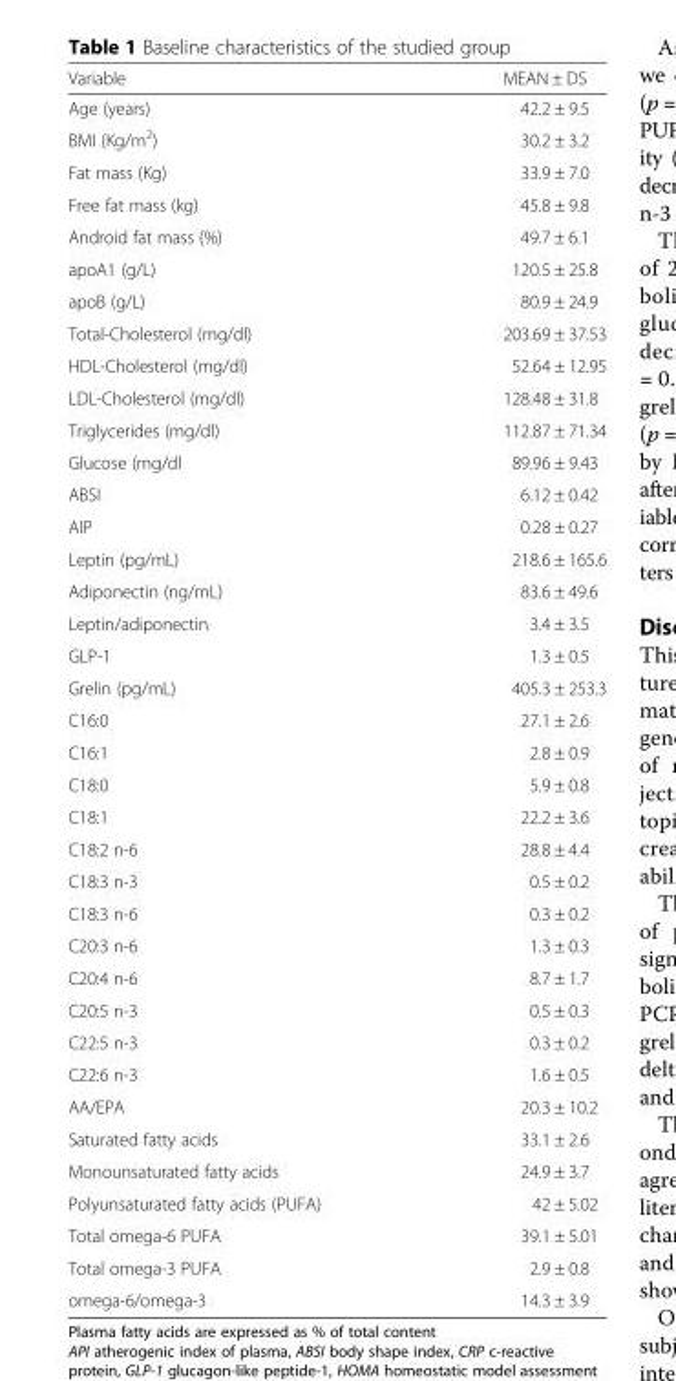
<table><thead><tr><td>Variable</td><td>MEAN ± DS</td></tr></thead><tbody><tr><td>Age (years)</td><td>42.2 ± 9.5</td></tr><tr><td>BMI (Kg/m<sup>2</sup>)</td><td>30.2 ± 3.2</td></tr><tr><td>Fat mass (Kg)</td><td>33.9 ± 7.0</td></tr><tr><td>Free fat mass (kg)</td><td>45.8 ± 9.8</td></tr><tr><td>Android fat mass (%)</td><td>49.7 ± 6.1</td></tr><tr><td>apoA1 (g/L)</td><td>120.5 ± 25.8</td></tr><tr><td>apoB (g/L)</td><td>80.9 ± 24.9</td></tr><tr><td>Total-Cholesterol (mg/dl)</td><td>203.69 ± 37.53</td></tr><tr><td>HDL-Cholesterol (mg/dl)</td><td>52.64 ± 12.95</td></tr><tr><td>LDL-Cholesterol (mg/dl)</td><td>128.48 ± 31.8</td></tr><tr><td>Triglycerides (mg/dl)</td><td>112.87 ± 71.34</td></tr><tr><td>Glucose (mg/dl</td><td>89.96 ± 9.43</td></tr><tr><td>ABSI</td><td>6.12 ± 0.42</td></tr><tr><td>AIP</td><td>0.28 ± 0.27</td></tr><tr><td>Leptin (pg/mL)</td><td>218.6 ± 165.6</td></tr><tr><td>Adiponectin (ng/mL)</td><td>83.6 ± 49.6</td></tr><tr><td>Leptin/adiponectin</td><td>3.4 ± 3.5</td></tr><tr><td>GLP-1</td><td>1.3 ± 0.5</td></tr><tr><td>Grelin (pg/mL)</td><td>405.3 ± 253.3</td></tr><tr><td>C16:0</td><td>27.1 ± 2.6</td></tr><tr><td>C16:1</td><td>2.8 ± 0.9</td></tr><tr><td>C18:0</td><td>5.9 ± 0.8</td></tr><tr><td>C18:1</td><td>22.2 ± 3.6</td></tr><tr><td>C18:2 n-6</td><td>28.8 ± 4.4</td></tr><tr><td>C18:3 n-3</td><td>0.5 ± 0.2</td></tr><tr><td>C18:3 n-6</td><td>0.3 ± 0.2</td></tr><tr><td>C20:3 n-6</td><td>1.3 ± 0.3</td></tr><tr><td>C20:4 n-6</td><td>8.7 ± 1.7</td></tr><tr><td>C20:5 n-3</td><td>0.5 ± 0.3</td></tr><tr><td>C22:5 n-3</td><td>0.3 ± 0.2</td></tr><tr><td>C22:6 n-3</td><td>1.6 ± 0.5</td></tr><tr><td>AA/EPA</td><td>20.3 ± 10.2</td></tr><tr><td>Saturated fatty acids</td><td>33.1 ± 2.6</td></tr><tr><td>Monounsaturated fatty acids</td><td>24.9 ± 3.7</td></tr><tr><td>Polyunsaturated fatty acids (PUFA)</td><td>42 ± 5.02</td></tr><tr><td>Total omega-6 PUFA</td><td>39.1 ± 5.01</td></tr><tr><td>Total omega-3 PUFA</td><td>2.9 ± 0.8</td></tr><tr><td>omega-6/omega-3</td><td>14.3 ± 3.9</td></tr></tbody></table>